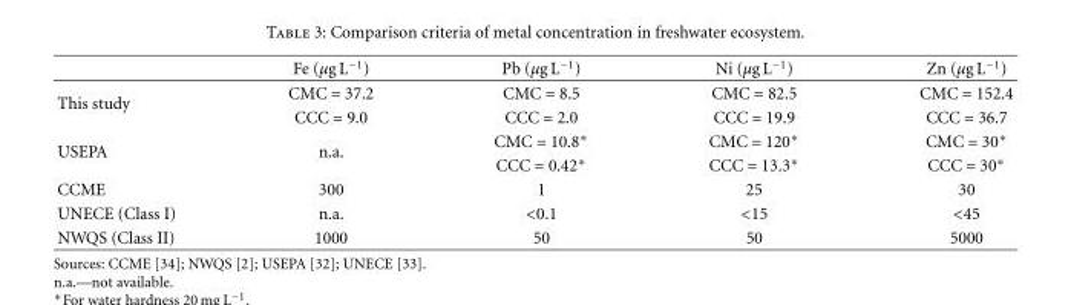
<table><thead><tr><td></td><td>Fe (µg L<sup>−1</sup>)</td><td>Pb (µg L<sup>−1</sup>)</td><td>Ni (µg L<sup>−1</sup>)</td><td>Zn (µg L<sup>−1</sup>)</td></tr></thead><tbody><tr><td rowspan="2">This study</td><td>CMC = 37.2</td><td>CMC = 8.5</td><td>CMC = 82.5</td><td>CMC = 152.4</td></tr><tr><td>CCC = 9.0</td><td>CCC = 2.0</td><td>CCC = 19.9</td><td>CCC = 36.7</td></tr><tr><td rowspan="2">USEPA</td><td rowspan="2">n.a.</td><td>CMC = 10.8∗</td><td>CMC = 120∗</td><td>CMC = 30∗</td></tr><tr><td>CCC = 0.42∗</td><td>CCC = 13.3∗</td><td>CCC = 30∗</td></tr><tr><td>CCME</td><td>300</td><td>1</td><td>25</td><td>30</td></tr><tr><td>UNECE (Class I)</td><td>n.a.</td><td>&lt;0.1</td><td>&lt;15</td><td>&lt;45</td></tr><tr><td>NWQS (Class II)</td><td>1000</td><td>50</td><td>50</td><td>5000</td></tr></tbody></table>